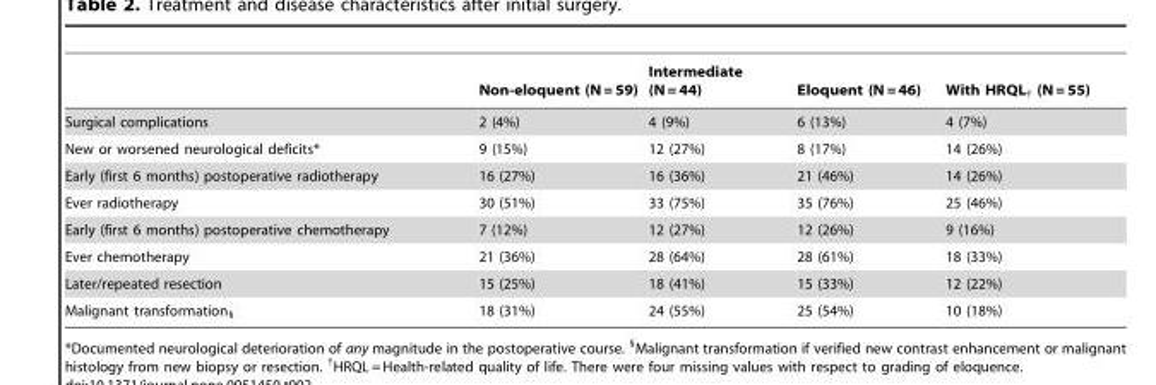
<table><thead><tr><td></td><td>Non-eloquent (N = 59)</td><td>Intermediate (N = 44)</td><td>Eloquent (N = 46)</td><td>With HRQL<sub>†</sub> (N = 55)</td></tr></thead><tbody><tr><td>Surgical complications</td><td>2 (4%)</td><td>4 (9%)</td><td>6 (13%)</td><td>4 (7%)</td></tr><tr><td>New or worsened neurological deficits*</td><td>9 (15%)</td><td>12 (27%)</td><td>8 (17%)</td><td>14 (26%)</td></tr><tr><td>Early (first 6 months) postoperative radiotherapy</td><td>16 (27%)</td><td>16 (36%)</td><td>21 (46%)</td><td>14 (26%)</td></tr><tr><td>Ever radiotherapy</td><td>30 (51%)</td><td>33 (75%)</td><td>35 (76%)</td><td>25 (46%)</td></tr><tr><td>Early (first 6 months) postoperative chemotherapy</td><td>7 (12%)</td><td>12 (27%)</td><td>12 (26%)</td><td>9 (16%)</td></tr><tr><td>Ever chemotherapy</td><td>21 (36%)</td><td>28 (64%)</td><td>28 (61%)</td><td>18 (33%)</td></tr><tr><td>Later/repeated resection</td><td>15 (25%)</td><td>18 (41%)</td><td>15 (33%)</td><td>12 (22%)</td></tr><tr><td>Malignant transformation<sub>§</sub></td><td>18 (31%)</td><td>24 (55%)</td><td>25 (54%)</td><td>10 (18%)</td></tr></tbody></table>